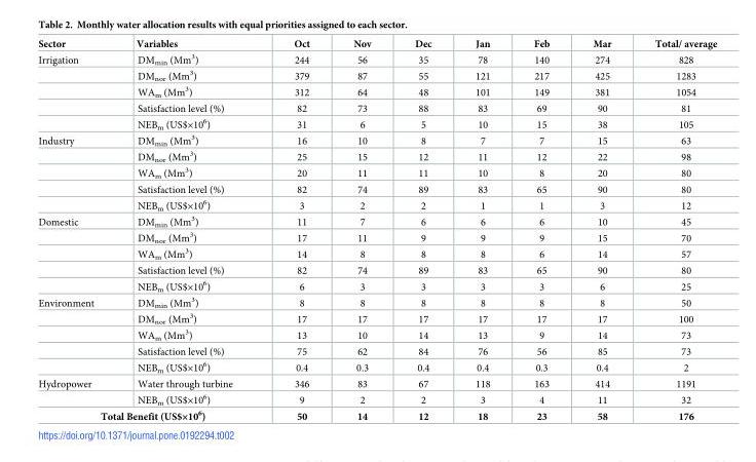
<table><thead><tr><td>Sector</td><td>Variables</td><td>Oct</td><td>Nov</td><td>Dec</td><td>Jan</td><td>Feb</td><td>Mar</td><td>Total/ average</td></tr></thead><tbody><tr><td rowspan="5">Irrigation</td><td>DM<sub>min</sub> (Mm<sup>3</sup>)</td><td>244</td><td>56</td><td>35</td><td>78</td><td>140</td><td>274</td><td>828</td></tr><tr><td>DM<sub>nor</sub> (Mm<sup>3</sup>)</td><td>379</td><td>87</td><td>55</td><td>121</td><td>217</td><td>425</td><td>1283</td></tr><tr><td>WA<sub>m</sub> (Mm<sup>3</sup>)</td><td>312</td><td>64</td><td>48</td><td>101</td><td>149</td><td>381</td><td>1054</td></tr><tr><td>Satisfaction level (%)</td><td>82</td><td>73</td><td>88</td><td>83</td><td>69</td><td>90</td><td>81</td></tr><tr><td>NEB<sub>m</sub> (US$×10<sup>6</sup>)</td><td>31</td><td>6</td><td>5</td><td>10</td><td>15</td><td>38</td><td>105</td></tr><tr><td rowspan="5">Industry</td><td>DM<sub>min</sub> (Mm<sup>3</sup>)</td><td>16</td><td>10</td><td>8</td><td>7</td><td>7</td><td>15</td><td>63</td></tr><tr><td>DM<sub>nor</sub> (Mm<sup>3</sup>)</td><td>25</td><td>15</td><td>12</td><td>11</td><td>12</td><td>22</td><td>98</td></tr><tr><td>WA<sub>m</sub> (Mm<sup>3</sup>)</td><td>20</td><td>11</td><td>11</td><td>10</td><td>8</td><td>20</td><td>80</td></tr><tr><td>Satisfaction level (%)</td><td>82</td><td>74</td><td>89</td><td>83</td><td>65</td><td>90</td><td>80</td></tr><tr><td>NEB<sub>m</sub> (US$×10<sup>6</sup>)</td><td>3</td><td>2</td><td>2</td><td>1</td><td>1</td><td>3</td><td>12</td></tr><tr><td rowspan="5">Domestic</td><td>DM<sub>min</sub> (Mm<sup>3</sup>)</td><td>11</td><td>7</td><td>6</td><td>6</td><td>6</td><td>10</td><td>45</td></tr><tr><td>DM<sub>nor</sub> (Mm<sup>3</sup>)</td><td>17</td><td>11</td><td>9</td><td>9</td><td>9</td><td>15</td><td>70</td></tr><tr><td>WA<sub>m</sub> (Mm<sup>3</sup>)</td><td>14</td><td>8</td><td>8</td><td>8</td><td>6</td><td>14</td><td>57</td></tr><tr><td>Satisfaction level (%)</td><td>82</td><td>74</td><td>89</td><td>83</td><td>65</td><td>90</td><td>80</td></tr><tr><td>NEB<sub>m</sub> (US$×10<sup>6</sup>)</td><td>6</td><td>3</td><td>3</td><td>3</td><td>3</td><td>6</td><td>25</td></tr><tr><td rowspan="5">Environment</td><td>DM<sub>min</sub> (Mm<sup>3</sup>)</td><td>8</td><td>8</td><td>8</td><td>8</td><td>8</td><td>8</td><td>50</td></tr><tr><td>DM<sub>nor</sub> (Mm<sup>3</sup>)</td><td>17</td><td>17</td><td>17</td><td>17</td><td>17</td><td>17</td><td>100</td></tr><tr><td>WA<sub>m</sub> (Mm<sup>3</sup>)</td><td>13</td><td>10</td><td>14</td><td>13</td><td>9</td><td>14</td><td>73</td></tr><tr><td>Satisfaction level (%)</td><td>75</td><td>62</td><td>84</td><td>76</td><td>56</td><td>85</td><td>73</td></tr><tr><td>NEB<sub>m</sub> (US$×10<sup>6</sup>)</td><td>0.4</td><td>0.3</td><td>0.4</td><td>0.4</td><td>0.3</td><td>0.4</td><td>2</td></tr><tr><td rowspan="2">Hydropower</td><td>Water through turbine</td><td>346</td><td>83</td><td>67</td><td>118</td><td>163</td><td>414</td><td>1191</td></tr><tr><td>NEB<sub>m</sub> (US$×10<sup>6</sup>)</td><td>9</td><td>2</td><td>2</td><td>3</td><td>4</td><td>11</td><td>32</td></tr><tr><td colspan="2">Total Benefit (US$×10<sup>6</sup>)</td><td>50</td><td>14</td><td>12</td><td>18</td><td>23</td><td>58</td><td>176</td></tr></tbody></table>